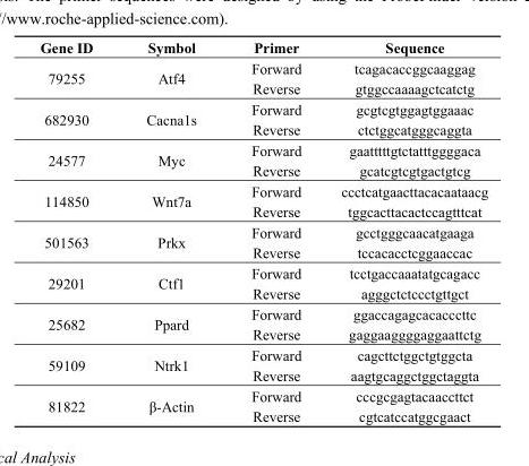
<table><thead><tr><td>Gene ID</td><td>Symbol</td><td>Primer</td><td>Sequence</td></tr></thead><tbody><tr><td rowspan="2">79255</td><td rowspan="2">Atf4</td><td>Forward</td><td>tcagacaccggcaaggag</td></tr><tr><td>Reverse</td><td>gtggccaaaagctcatctg</td></tr><tr><td rowspan="2">682930</td><td rowspan="2">Cacna1s</td><td>Forward</td><td>gcgtcgtggagtggaaac</td></tr><tr><td>Reverse</td><td>ctctggcatgggcaggta</td></tr><tr><td rowspan="2">24577</td><td rowspan="2">Myc</td><td>Forward</td><td>gaatttttgtctatttggggaca</td></tr><tr><td>Reverse</td><td>gcatcgtcgtgactgtcg</td></tr><tr><td rowspan="2">114850</td><td rowspan="2">Wnt7a</td><td>Forward</td><td>ccctcatgaacttacacaataacg</td></tr><tr><td>Reverse</td><td>tggcacttacactccagtttcat</td></tr><tr><td rowspan="2">501563</td><td rowspan="2">Prkx</td><td>Forward</td><td>gcctgggcaacatgaaga</td></tr><tr><td>Reverse</td><td>tccacacctcggaaccac</td></tr><tr><td rowspan="2">29201</td><td rowspan="2">Ctf1</td><td>Forward</td><td>tcctgaccaaatatgcagacc</td></tr><tr><td>Reverse</td><td>agggctctccctgttgct</td></tr><tr><td rowspan="2">25682</td><td rowspan="2">Ppard</td><td>Forward</td><td>ggaccagagcacacccttc</td></tr><tr><td>Reverse</td><td>gaggaaggggaggaattctg</td></tr><tr><td rowspan="2">59109</td><td rowspan="2">Ntrk1</td><td>Forward</td><td>cagcttctggctgtggcta</td></tr><tr><td>Reverse</td><td>aagtgcaggctggctaggta</td></tr><tr><td rowspan="2">81822</td><td rowspan="2">β-Actin</td><td>Forward</td><td>cccgcgagtacaaccttct</td></tr><tr><td>Reverse</td><td>cgtcatccatggcgaact</td></tr></tbody></table>